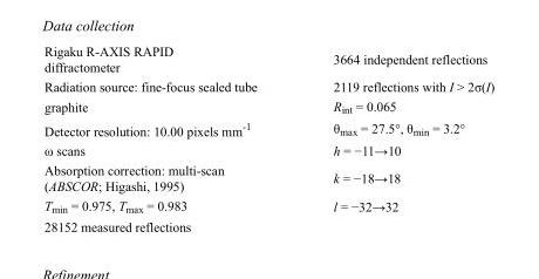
<table><tbody><tr><td>Rigaku R-AXIS RAPID diffractometer</td><td>3664 independent reflections</td></tr><tr><td>Radiation source: fine-focus sealed tube</td><td>2119 reflections with I &gt; 2σ(I)</td></tr><tr><td>graphite</td><td>R<sub>int</sub> = 0.065</td></tr><tr><td>Detector resolution: 10.00 pixels mm<sup>-1</sup></td><td>θ<sub>max</sub> = 27.5°, θ<sub>min</sub> = 3.2°</td></tr><tr><td>ω scans</td><td>h = −11→10</td></tr><tr><td>Absorption correction: multi-scan (ABSCOR; Higashi, 1995)</td><td>k = −18→18</td></tr><tr><td>T<sub>min</sub> = 0.975, T<sub>max</sub> = 0.983</td><td>l = −32→32</td></tr><tr><td>28152 measured reflections</td><td></td></tr></tbody></table>